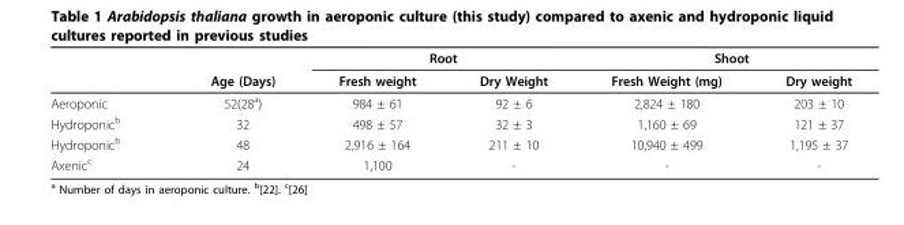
<table><thead><tr><td rowspan="2"></td><td rowspan="2">Age (Days)</td><td colspan="2">Root</td><td colspan="2">Shoot</td></tr><tr><td>Fresh weight</td><td>Dry Weight</td><td>Fresh Weight (mg)</td><td>Dry weight</td></tr></thead><tbody><tr><td>Aeroponic</td><td>52(28<sup>a</sup>)</td><td>984 ± 61</td><td>92 ± 6</td><td>2,824 ± 180</td><td>203 ± 10</td></tr><tr><td>Hydroponic<sup>b</sup></td><td>32</td><td>498 ± 57</td><td>32 ± 3</td><td>1,160 ± 69</td><td>121 ± 37</td></tr><tr><td>Hydroponic<sup>b</sup></td><td>48</td><td>2,916 ± 164</td><td>211 ± 10</td><td>10,940 ± 499</td><td>1,195 ± 37</td></tr><tr><td>Axenic<sup>c</sup></td><td>24</td><td>1,100</td><td>-</td><td>-</td><td>-</td></tr></tbody></table>